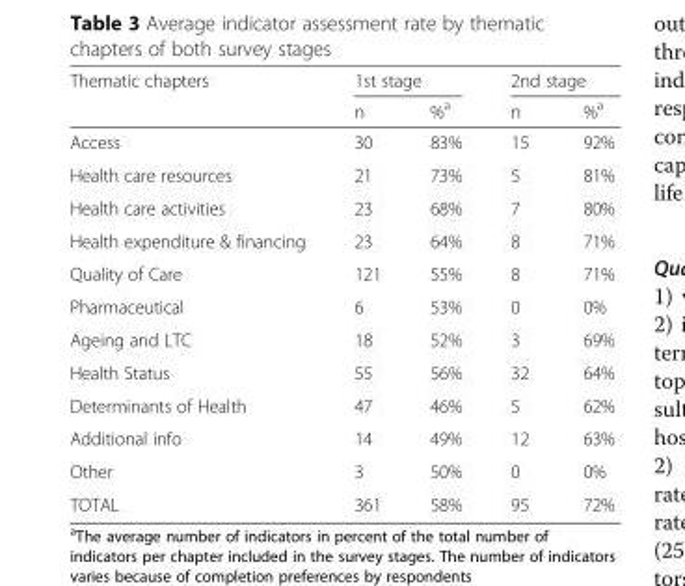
<table><thead><tr><td rowspan="2">Thematic chapters</td><td colspan="2">1st stage</td><td colspan="2">2nd stage</td></tr><tr><td>n</td><td>%<sup>a</sup></td><td>n</td><td>%<sup>a</sup></td></tr></thead><tbody><tr><td>Access</td><td>30</td><td>83%</td><td>15</td><td>92%</td></tr><tr><td>Health care resources</td><td>21</td><td>73%</td><td>5</td><td>81%</td></tr><tr><td>Health care activities</td><td>23</td><td>68%</td><td>7</td><td>80%</td></tr><tr><td>Health expenditure &amp; financing</td><td>23</td><td>64%</td><td>8</td><td>71%</td></tr><tr><td>Quality of Care</td><td>121</td><td>55%</td><td>8</td><td>71%</td></tr><tr><td>Pharmaceutical</td><td>6</td><td>53%</td><td>0</td><td>0%</td></tr><tr><td>Ageing and LTC</td><td>18</td><td>52%</td><td>3</td><td>69%</td></tr><tr><td>Health Status</td><td>55</td><td>56%</td><td>32</td><td>64%</td></tr><tr><td>Determinants of Health</td><td>47</td><td>46%</td><td>5</td><td>62%</td></tr><tr><td>Additional info</td><td>14</td><td>49%</td><td>12</td><td>63%</td></tr><tr><td>Other</td><td>3</td><td>50%</td><td>0</td><td>0%</td></tr><tr><td>TOTAL</td><td>361</td><td>58%</td><td>95</td><td>72%</td></tr></tbody></table>